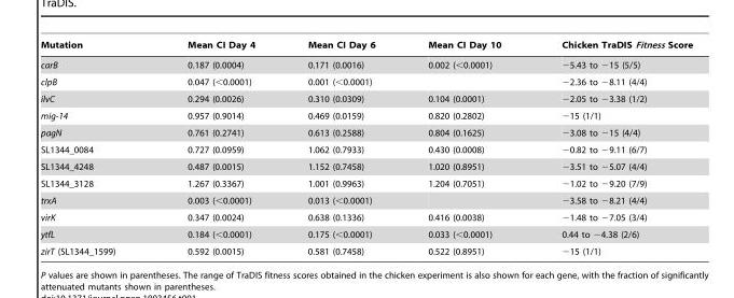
<table><thead><tr><td>Mutation</td><td>Mean CI Day 4</td><td>Mean CI Day 6</td><td>Mean CI Day 10</td><td>Chicken TraDIS Fitness Score</td></tr></thead><tbody><tr><td>carB</td><td>0.187 (0.0004)</td><td>0.171 (0.0016)</td><td>0.002 (&lt;0.0001)</td><td>−5.43 to −15 (5/5)</td></tr><tr><td>clpB</td><td>0.047 (&lt;0.0001)</td><td>0.001 (&lt;0.0001)</td><td></td><td>−2.36 to −8.11 (4/4)</td></tr><tr><td>ilvC</td><td>0.294 (0.0026)</td><td>0.310 (0.0309)</td><td>0.104 (0.0001)</td><td>−2.05 to −3.38 (1/2)</td></tr><tr><td>mig-14</td><td>0.957 (0.9014)</td><td>0.469 (0.0159)</td><td>0.820 (0.2802)</td><td>−15 (1/1)</td></tr><tr><td>pagN</td><td>0.761 (0.2741)</td><td>0.613 (0.2588)</td><td>0.804 (0.1625)</td><td>−3.08 to −15 (4/4)</td></tr><tr><td>SL1344_0084</td><td>0.727 (0.0959)</td><td>1.062 (0.7933)</td><td>0.430 (0.0008)</td><td>−0.82 to −9.11 (6/7)</td></tr><tr><td>SL1344_4248</td><td>0.487 (0.0015)</td><td>1.152 (0.7458)</td><td>1.020 (0.8951)</td><td>−3.51 to −5.07 (4/4)</td></tr><tr><td>SL1344_3128</td><td>1.267 (0.3367)</td><td>1.001 (0.9963)</td><td>1.204 (0.7051)</td><td>−1.02 to −9.20 (7/9)</td></tr><tr><td>trxA</td><td>0.003 (&lt;0.0001)</td><td>0.013 (&lt;0.0001)</td><td></td><td>−3.58 to −8.21 (4/4)</td></tr><tr><td>virK</td><td>0.347 (0.0024)</td><td>0.638 (0.1336)</td><td>0.416 (0.0038)</td><td>−1.48 to −7.05 (3/4)</td></tr><tr><td>ytfL</td><td>0.184 (&lt;0.0001)</td><td>0.175 (&lt;0.0001)</td><td>0.033 (&lt;0.0001)</td><td>0.44 to −4.38 (2/6)</td></tr><tr><td>zirT (SL1344_1599)</td><td>0.592 (0.0015)</td><td>0.581 (0.7458)</td><td>0.522 (0.8951)</td><td>−15 (1/1)</td></tr></tbody></table>